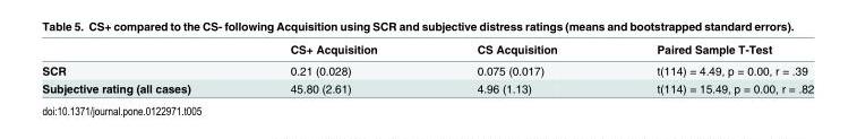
<table><thead><tr><td></td><td>CS+ Acquisition</td><td>CS Acquisition</td><td>Paired Sample T-Test</td></tr></thead><tbody><tr><td>SCR</td><td>0.21 (0.028)</td><td>0.075 (0.017)</td><td>t(114) = 4.49, p = 0.00, r = .39</td></tr><tr><td>Subjective rating (all cases)</td><td>45.80 (2.61)</td><td>4.96 (1.13)</td><td>t(114) = 15.49, p = 0.00, r = .82</td></tr></tbody></table>